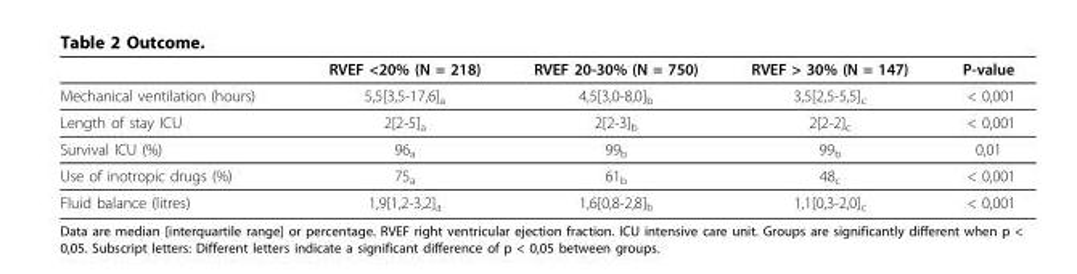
<table><thead><tr><td></td><td>RVEF &lt;20% (N = 218)</td><td>RVEF 20-30% (N = 750)</td><td>RVEF &gt; 30% (N = 147)</td><td>P-value</td></tr></thead><tbody><tr><td>Mechanical ventilation (hours)</td><td>5,5[3,5-17,6]<sub>a</sub></td><td>4,5[3,0-8,0]<sub>b</sub></td><td>3,5[2,5-5,5]<sub>c</sub></td><td>&lt; 0,001</td></tr><tr><td>Length of stay ICU</td><td>2[2-5]<sub>a</sub></td><td>2[2-3]<sub>b</sub></td><td>2[2-2]<sub>c</sub></td><td>&lt; 0,001</td></tr><tr><td>Survival ICU (%)</td><td>96<sub>a</sub></td><td>99<sub>b</sub></td><td>99<sub>b</sub></td><td>0,01</td></tr><tr><td>Use of inotropic drugs (%)</td><td>75<sub>a</sub></td><td>61<sub>b</sub></td><td>48<sub>c</sub></td><td>&lt; 0,001</td></tr><tr><td>Fluid balance (litres)</td><td>1,9[1,2-3,2]<sub>a</sub></td><td>1,6[0,8-2,8]<sub>b</sub></td><td>1,1[0,3-2,0]<sub>c</sub></td><td>&lt; 0,001</td></tr></tbody></table>